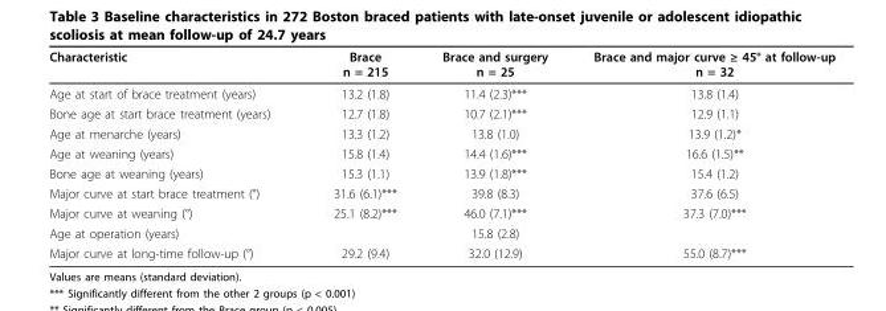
<table><thead><tr><td>Characteristic</td><td>Brace n = 215</td><td>Brace and surgery n = 25</td><td>Brace and major curve ≥ 45° at follow-up n = 32</td></tr></thead><tbody><tr><td>Age at start of brace treatment (years)</td><td>13.2 (1.8)</td><td>11.4 (2.3)***</td><td>13.8 (1.4)</td></tr><tr><td>Bone age at start brace treatment (years)</td><td>12.7 (1.8)</td><td>10.7 (2.1)***</td><td>12.9 (1.1)</td></tr><tr><td>Age at menarche (years)</td><td>13.3 (1.2)</td><td>13.8 (1.0)</td><td>13.9 (1.2)*</td></tr><tr><td>Age at weaning (years)</td><td>15.8 (1.4)</td><td>14.4 (1.6)***</td><td>16.6 (1.5)**</td></tr><tr><td>Bone age at weaning (years)</td><td>15.3 (1.1)</td><td>13.9 (1.8)***</td><td>15.4 (1.2)</td></tr><tr><td>Major curve at start brace treatment (°)</td><td>31.6 (6.1)***</td><td>39.8 (8.3)</td><td>37.6 (6.5)</td></tr><tr><td>Major curve at weaning (°)</td><td>25.1 (8.2)***</td><td>46.0 (7.1)***</td><td>37.3 (7.0)***</td></tr><tr><td>Age at operation (years)</td><td></td><td>15.8 (2.8)</td><td></td></tr><tr><td>Major curve at long-time follow-up (°)</td><td>29.2 (9.4)</td><td>32.0 (12.9)</td><td>55.0 (8.7)***</td></tr></tbody></table>